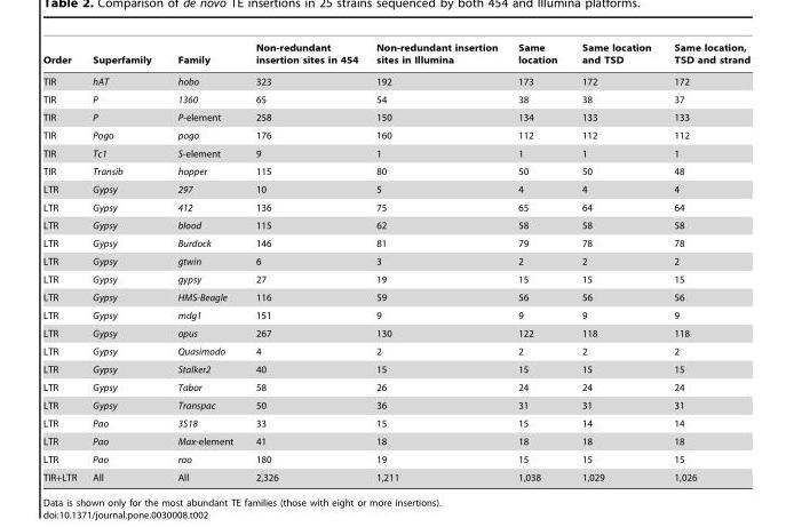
<table><thead><tr><td>Order</td><td>Superfamily</td><td>Family</td><td>Non-redundant insertion sites in 454</td><td>Non-redundant insertion sites in Illumina</td><td>Same location</td><td>Same location and TSD</td><td>Same location, TSD and strand</td></tr></thead><tbody><tr><td>TIR</td><td>hAT</td><td>hobo</td><td>323</td><td>192</td><td>173</td><td>172</td><td>172</td></tr><tr><td>TIR</td><td>P</td><td>1360</td><td>65</td><td>54</td><td>38</td><td>38</td><td>37</td></tr><tr><td>TIR</td><td>P</td><td>P-element</td><td>258</td><td>150</td><td>134</td><td>133</td><td>133</td></tr><tr><td>TIR</td><td>Pogo</td><td>pogo</td><td>176</td><td>160</td><td>112</td><td>112</td><td>112</td></tr><tr><td>TIR</td><td>Tc1</td><td>S-element</td><td>9</td><td>1</td><td>1</td><td>1</td><td>1</td></tr><tr><td>TIR</td><td>Transib</td><td>hopper</td><td>115</td><td>80</td><td>50</td><td>50</td><td>48</td></tr><tr><td>LTR</td><td>Gypsy</td><td>297</td><td>10</td><td>5</td><td>4</td><td>4</td><td>4</td></tr><tr><td>LTR</td><td>Gypsy</td><td>412</td><td>136</td><td>75</td><td>65</td><td>64</td><td>64</td></tr><tr><td>LTR</td><td>Gypsy</td><td>blood</td><td>115</td><td>62</td><td>58</td><td>58</td><td>58</td></tr><tr><td>LTR</td><td>Gypsy</td><td>Burdock</td><td>146</td><td>81</td><td>79</td><td>78</td><td>78</td></tr><tr><td>LTR</td><td>Gypsy</td><td>gtwin</td><td>6</td><td>3</td><td>2</td><td>2</td><td>2</td></tr><tr><td>LTR</td><td>Gypsy</td><td>gypsy</td><td>27</td><td>19</td><td>15</td><td>15</td><td>15</td></tr><tr><td>LTR</td><td>Gypsy</td><td>HMS-Beagle</td><td>116</td><td>59</td><td>56</td><td>56</td><td>56</td></tr><tr><td>LTR</td><td>Gypsy</td><td>mdg1</td><td>151</td><td>9</td><td>9</td><td>9</td><td>9</td></tr><tr><td>LTR</td><td>Gypsy</td><td>opus</td><td>267</td><td>130</td><td>122</td><td>118</td><td>118</td></tr><tr><td>LTR</td><td>Gypsy</td><td>Quasimodo</td><td>4</td><td>2</td><td>2</td><td>2</td><td>2</td></tr><tr><td>LTR</td><td>Gypsy</td><td>Stalker2</td><td>40</td><td>15</td><td>15</td><td>15</td><td>15</td></tr><tr><td>LTR</td><td>Gypsy</td><td>Tabor</td><td>58</td><td>26</td><td>24</td><td>24</td><td>24</td></tr><tr><td>LTR</td><td>Gypsy</td><td>Transpac</td><td>50</td><td>36</td><td>31</td><td>31</td><td>31</td></tr><tr><td>LTR</td><td>Pao</td><td>3S18</td><td>33</td><td>15</td><td>15</td><td>14</td><td>14</td></tr><tr><td>LTR</td><td>Pao</td><td>Max-element</td><td>41</td><td>18</td><td>18</td><td>18</td><td>18</td></tr><tr><td>LTR</td><td>Pao</td><td>roo</td><td>180</td><td>19</td><td>15</td><td>15</td><td>15</td></tr><tr><td>TIR+LTR</td><td>All</td><td>All</td><td>2,326</td><td>1,211</td><td>1,038</td><td>1,029</td><td>1,026</td></tr></tbody></table>